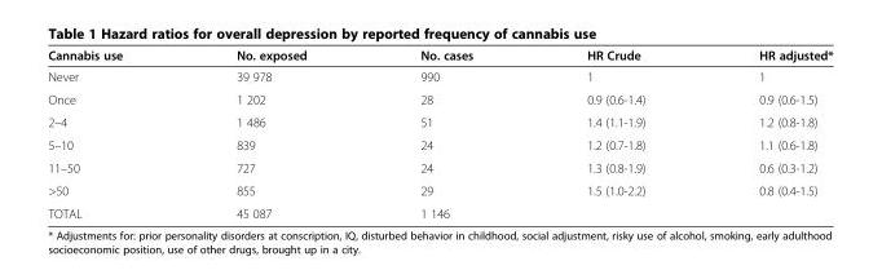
<table><thead><tr><td>Cannabis use</td><td>No. exposed</td><td>No. cases</td><td>HR Crude</td><td>HR adjusted*</td></tr></thead><tbody><tr><td>Never</td><td>39 978</td><td>990</td><td>1</td><td>1</td></tr><tr><td>Once</td><td>1 202</td><td>28</td><td>0.9 (0.6-1.4)</td><td>0.9 (0.6-1.5)</td></tr><tr><td>2–4</td><td>1 486</td><td>51</td><td>1.4 (1.1-1.9)</td><td>1.2 (0.8-1.8)</td></tr><tr><td>5–10</td><td>839</td><td>24</td><td>1.2 (0.7-1.8)</td><td>1.1 (0.6-1.8)</td></tr><tr><td>11–50</td><td>727</td><td>24</td><td>1.3 (0.8-1.9)</td><td>0.6 (0.3-1.2)</td></tr><tr><td>&gt;50</td><td>855</td><td>29</td><td>1.5 (1.0-2.2)</td><td>0.8 (0.4-1.5)</td></tr><tr><td>TOTAL</td><td>45 087</td><td>1 146</td><td></td><td></td></tr></tbody></table>